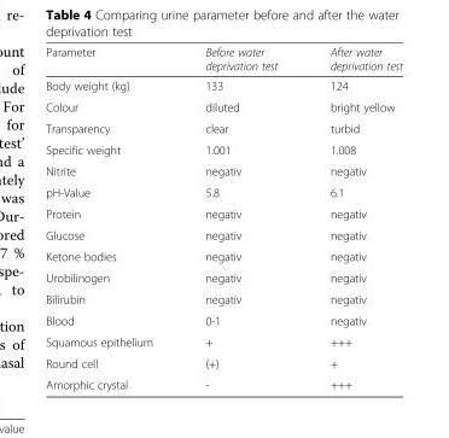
<table><thead><tr><td>Parameter</td><td>Before water deprivation test</td><td>After water deprivation test</td></tr></thead><tbody><tr><td>Body weight (kg)</td><td>133</td><td>124</td></tr><tr><td>Colour</td><td>diluted</td><td>bright yellow</td></tr><tr><td>Transparency</td><td>clear</td><td>turbid</td></tr><tr><td>Specific weight</td><td>1.001</td><td>1.008</td></tr><tr><td>Nitrite</td><td>negativ</td><td>negativ</td></tr><tr><td>pH-Value</td><td>5.8</td><td>6.1</td></tr><tr><td>Protein</td><td>negativ</td><td>negativ</td></tr><tr><td>Glucose</td><td>negativ</td><td>negativ</td></tr><tr><td>Ketone bodies</td><td>negativ</td><td>negativ</td></tr><tr><td>Urobilinogen</td><td>negativ</td><td>negativ</td></tr><tr><td>Bilirubin</td><td>negativ</td><td>negativ</td></tr><tr><td>Blood</td><td>0-1</td><td>negativ</td></tr><tr><td>Squamous epithelium</td><td>+</td><td>+++</td></tr><tr><td>Round cell</td><td>(+)</td><td>+</td></tr><tr><td>Amorphic crystal</td><td>-</td><td>+++</td></tr></tbody></table>